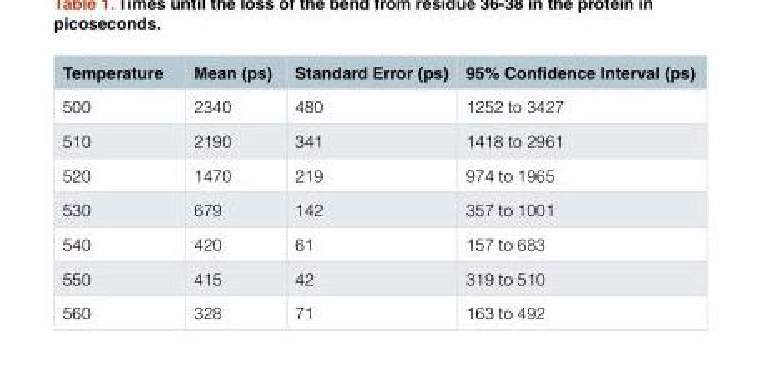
<table><thead><tr><td>Temperature</td><td>Mean (ps)</td><td>Standard Error (ps)</td><td>95% Confidence Interval (ps)</td></tr></thead><tbody><tr><td>500</td><td>2340</td><td>480</td><td>1252 to 3427</td></tr><tr><td>510</td><td>2190</td><td>341</td><td>1418 to 2961</td></tr><tr><td>520</td><td>1470</td><td>219</td><td>974 to 1965</td></tr><tr><td>530</td><td>679</td><td>142</td><td>357 to 1001</td></tr><tr><td>540</td><td>420</td><td>61</td><td>157 to 683</td></tr><tr><td>550</td><td>415</td><td>42</td><td>319 to 510</td></tr><tr><td>560</td><td>328</td><td>71</td><td>163 to 492</td></tr></tbody></table>